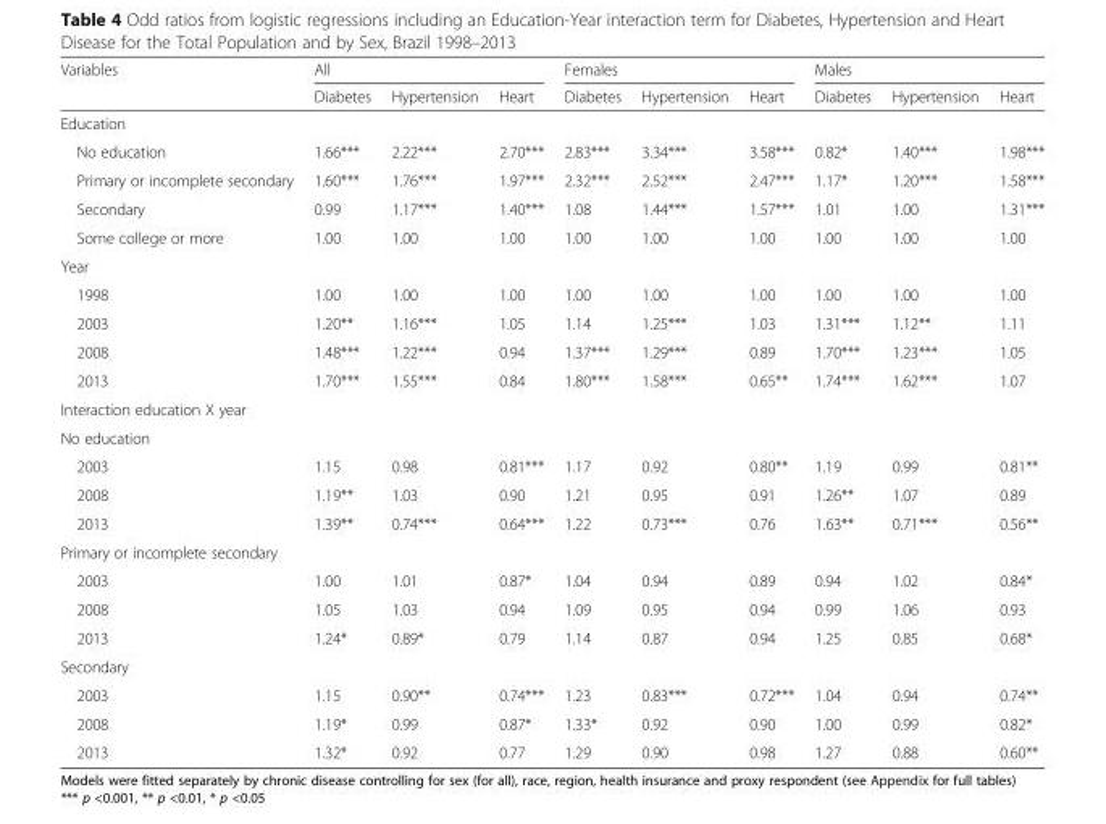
<table><thead><tr><td rowspan="2">Variables</td><td colspan="3">All</td><td colspan="3">Females</td><td colspan="3">Males</td></tr><tr><td>Diabetes</td><td>Hypertension</td><td>Heart</td><td>Diabetes</td><td>Hypertension</td><td>Heart</td><td>Diabetes</td><td>Hypertension</td><td>Heart</td></tr></thead><tbody><tr><td colspan="10">Education</td></tr><tr><td>No education</td><td>1.66***</td><td>2.22***</td><td>2.70***</td><td>2.83***</td><td>3.34***</td><td>3.58***</td><td>0.82*</td><td>1.40***</td><td>1.98***</td></tr><tr><td>Primary or incomplete secondary</td><td>1.60***</td><td>1.76***</td><td>1.97***</td><td>2.32***</td><td>2.52***</td><td>2.47***</td><td>1.17*</td><td>1.20***</td><td>1.58***</td></tr><tr><td>Secondary</td><td>0.99</td><td>1.17***</td><td>1.40***</td><td>1.08</td><td>1.44***</td><td>1.57***</td><td>1.01</td><td>1.00</td><td>1.31***</td></tr><tr><td>Some college or more</td><td>1.00</td><td>1.00</td><td>1.00</td><td>1.00</td><td>1.00</td><td>1.00</td><td>1.00</td><td>1.00</td><td>1.00</td></tr><tr><td colspan="10">Year</td></tr><tr><td>1998</td><td>1.00</td><td>1.00</td><td>1.00</td><td>1.00</td><td>1.00</td><td>1.00</td><td>1.00</td><td>1.00</td><td>1.00</td></tr><tr><td>2003</td><td>1.20**</td><td>1.16***</td><td>1.05</td><td>1.14</td><td>1.25***</td><td>1.03</td><td>1.31***</td><td>1.12**</td><td>1.11</td></tr><tr><td>2008</td><td>1.48***</td><td>1.22***</td><td>0.94</td><td>1.37***</td><td>1.29***</td><td>0.89</td><td>1.70***</td><td>1.23***</td><td>1.05</td></tr><tr><td>2013</td><td>1.70***</td><td>1.55***</td><td>0.84</td><td>1.80***</td><td>1.58***</td><td>0.65**</td><td>1.74***</td><td>1.62***</td><td>1.07</td></tr><tr><td colspan="10">Interaction education X year</td></tr><tr><td colspan="10">No education</td></tr><tr><td>2003</td><td>1.15</td><td>0.98</td><td>0.81***</td><td>1.17</td><td>0.92</td><td>0.80**</td><td>1.19</td><td>0.99</td><td>0.81**</td></tr><tr><td>2008</td><td>1.19**</td><td>1.03</td><td>0.90</td><td>1.21</td><td>0.95</td><td>0.91</td><td>1.26**</td><td>1.07</td><td>0.89</td></tr><tr><td>2013</td><td>1.39**</td><td>0.74***</td><td>0.64***</td><td>1.22</td><td>0.73***</td><td>0.76</td><td>1.63**</td><td>0.71***</td><td>0.56**</td></tr><tr><td colspan="10">Primary or incomplete secondary</td></tr><tr><td>2003</td><td>1.00</td><td>1.01</td><td>0.87*</td><td>1.04</td><td>0.94</td><td>0.89</td><td>0.94</td><td>1.02</td><td>0.84*</td></tr><tr><td>2008</td><td>1.05</td><td>1.03</td><td>0.94</td><td>1.09</td><td>0.95</td><td>0.94</td><td>0.99</td><td>1.06</td><td>0.93</td></tr><tr><td>2013</td><td>1.24*</td><td>0.89*</td><td>0.79</td><td>1.14</td><td>0.87</td><td>0.94</td><td>1.25</td><td>0.85</td><td>0.68*</td></tr><tr><td colspan="10">Secondary</td></tr><tr><td>2003</td><td>1.15</td><td>0.90**</td><td>0.74***</td><td>1.23</td><td>0.83***</td><td>0.72***</td><td>1.04</td><td>0.94</td><td>0.74**</td></tr><tr><td>2008</td><td>1.19*</td><td>0.99</td><td>0.87*</td><td>1.33*</td><td>0.92</td><td>0.90</td><td>1.00</td><td>0.99</td><td>0.82*</td></tr><tr><td>2013</td><td>1.32*</td><td>0.92</td><td>0.77</td><td>1.29</td><td>0.90</td><td>0.98</td><td>1.27</td><td>0.88</td><td>0.60**</td></tr></tbody></table>